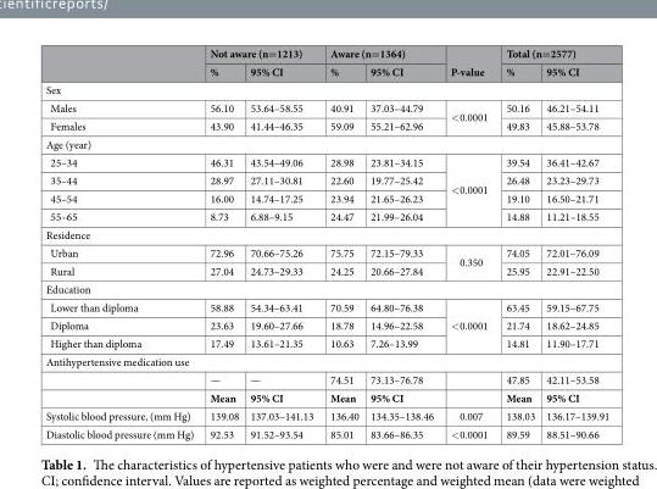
<table><thead><tr><td rowspan="2"></td><td colspan="2">Not aware (n=1213)</td><td colspan="2">Aware (n=1364)</td><td rowspan="2">P-value</td><td colspan="2">Total (n=2577)</td></tr><tr><td>%</td><td>95% CI</td><td>%</td><td>95% CI</td><td>%</td><td>95% CI</td></tr></thead><tbody><tr><td colspan="8">Sex</td></tr><tr><td>Males</td><td>56.10</td><td>53.64–58.55</td><td>40.91</td><td>37.03–44.79</td><td rowspan="2">&lt;0.0001</td><td>50.16</td><td>46.21–54.11</td></tr><tr><td>Females</td><td>43.90</td><td>41.44–46.35</td><td>59.09</td><td>55.21–62.96</td><td>49.83</td><td>45.88–53.78</td></tr><tr><td colspan="8">Age (year)</td></tr><tr><td>25–34</td><td>46.31</td><td>43.54–49.06</td><td>28.98</td><td>23.81–34.15</td><td rowspan="4">&lt;0.0001</td><td>39.54</td><td>36.41–42.67</td></tr><tr><td>35–44</td><td>28.97</td><td>27.11–30.81</td><td>22.60</td><td>19.77–25.42</td><td>26.48</td><td>23.23–29.73</td></tr><tr><td>45–54</td><td>16.00</td><td>14.74–17.25</td><td>23.94</td><td>21.65–26.23</td><td>19.10</td><td>16.50–21.71</td></tr><tr><td>55–65</td><td>8.73</td><td>6.88–9.15</td><td>24.47</td><td>21.99–26.04</td><td>14.88</td><td>11.21–18.55</td></tr><tr><td colspan="8">Residence</td></tr><tr><td>Urban</td><td>72.96</td><td>70.66–75.26</td><td>75.75</td><td>72.15–79.33</td><td rowspan="2">0.350</td><td>74.05</td><td>72.01–76.09</td></tr><tr><td>Rural</td><td>27.04</td><td>24.73–29.33</td><td>24.25</td><td>20.66–27.84</td><td>25.95</td><td>22.91–22.50</td></tr><tr><td colspan="8">Education</td></tr><tr><td>Lower than diploma</td><td>58.88</td><td>54.34–63.41</td><td>70.59</td><td>64.80–76.38</td><td rowspan="3">&lt;0.0001</td><td>63.45</td><td>59.15–67.75</td></tr><tr><td>Diploma</td><td>23.63</td><td>19.60–27.66</td><td>18.78</td><td>14.96–22.58</td><td>21.74</td><td>18.62–24.85</td></tr><tr><td>Higher than diploma</td><td>17.49</td><td>13.61–21.35</td><td>10.63</td><td>7.26–13.99</td><td>14.81</td><td>11.90–17.71</td></tr><tr><td colspan="8">Antihypertensive medication use</td></tr><tr><td></td><td>—</td><td>—</td><td>74.51</td><td>73.13–76.78</td><td></td><td>47.85</td><td>42.11–53.58</td></tr><tr><td></td><td>Mean</td><td>95% CI</td><td>Mean</td><td>95% CI</td><td></td><td>Mean</td><td>95% CI</td></tr><tr><td>Systolic blood pressure, (mm Hg)</td><td>139.08</td><td>137.03–141.13</td><td>136.40</td><td>134.35–138.46</td><td>0.007</td><td>138.03</td><td>136.17–139.91</td></tr><tr><td>Diastolic blood pressure (mm Hg)</td><td>92.53</td><td>91.52–93.54</td><td>85.01</td><td>83.66–86.35</td><td>&lt;0.0001</td><td>89.59</td><td>88.51–90.66</td></tr></tbody></table>